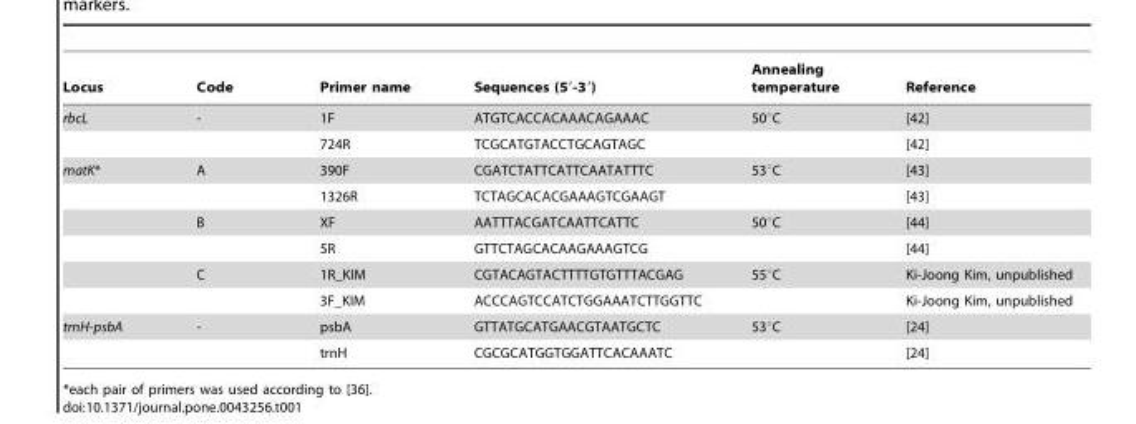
<table><thead><tr><td>Locus</td><td>Code</td><td>Primer name</td><td>Sequences (5′-3′)</td><td>Annealing temperature</td><td>Reference</td></tr></thead><tbody><tr><td rowspan="2">rbcL</td><td>-</td><td>1F</td><td>ATGTCACCACAAACAGAAAC</td><td>50°C</td><td>[42]</td></tr><tr><td></td><td>724R</td><td>TCGCATGTACCTGCAGTAGC</td><td></td><td>[42]</td></tr><tr><td rowspan="6">matK*</td><td>A</td><td>390F</td><td>CGATCTATTCATTCAATATTTC</td><td>53°C</td><td>[43]</td></tr><tr><td></td><td>1326R</td><td>TCTAGCACACGAAAGTCGAAGT</td><td></td><td>[43]</td></tr><tr><td>B</td><td>XF</td><td>AATTTACGATCAATTCATTC</td><td>50°C</td><td>[44]</td></tr><tr><td></td><td>5R</td><td>GTTCTAGCACAAGAAAGTCG</td><td></td><td>[44]</td></tr><tr><td>C</td><td>1R_KIM</td><td>CGTACAGTACTTTTGTGTTTACGAG</td><td>55°C</td><td>Ki-Joong Kim, unpublished</td></tr><tr><td></td><td>3F_KIM</td><td>ACCCAGTCCATCTGGAAATCTTGGTTC</td><td></td><td>Ki-Joong Kim, unpublished</td></tr><tr><td rowspan="2">trnH-psbA</td><td>-</td><td>psbA</td><td>GTTATGCATGAACGTAATGCTC</td><td>53°C</td><td>[24]</td></tr><tr><td></td><td>trnH</td><td>CGCGCATGGTGGATTCACAAATC</td><td></td><td>[24]</td></tr></tbody></table>